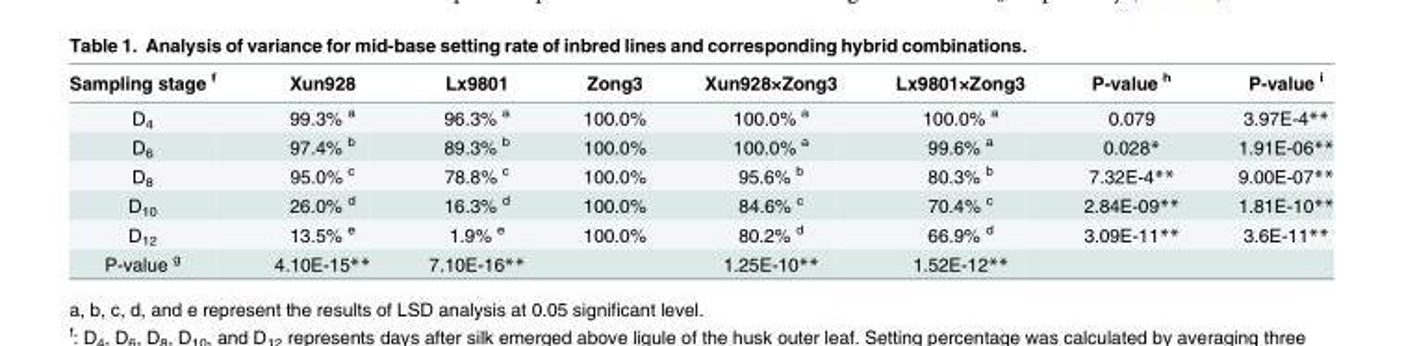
<table><thead><tr><td>Sampling stage <sup>f</sup></td><td>Xun928</td><td>Lx9801</td><td>Zong3</td><td>Xun928×Zong3</td><td>Lx9801×Zong3</td><td>P-value <sup>h</sup></td><td>P-value <sup>i</sup></td></tr></thead><tbody><tr><td>D<sub>4</sub></td><td>99.3% <sup>a</sup></td><td>96.3% <sup>a</sup></td><td>100.0%</td><td>100.0% <sup>a</sup></td><td>100.0% <sup>a</sup></td><td>0.079</td><td>3.97E-4**</td></tr><tr><td>D<sub>6</sub></td><td>97.4% <sup>b</sup></td><td>89.3% <sup>b</sup></td><td>100.0%</td><td>100.0% <sup>a</sup></td><td>99.6% <sup>a</sup></td><td>0.028*</td><td>1.91E-06**</td></tr><tr><td>D<sub>8</sub></td><td>95.0% <sup>c</sup></td><td>78.8% <sup>c</sup></td><td>100.0%</td><td>95.6% <sup>b</sup></td><td>80.3% <sup>b</sup></td><td>7.32E-4**</td><td>9.00E-07**</td></tr><tr><td>D<sub>10</sub></td><td>26.0% <sup>d</sup></td><td>16.3% <sup>d</sup></td><td>100.0%</td><td>84.6% <sup>c</sup></td><td>70.4% <sup>c</sup></td><td>2.84E-09**</td><td>1.81E-10**</td></tr><tr><td>D<sub>12</sub></td><td>13.5% <sup>e</sup></td><td>1.9% <sup>e</sup></td><td>100.0%</td><td>80.2% <sup>d</sup></td><td>66.9% <sup>d</sup></td><td>3.09E-11**</td><td>3.6E-11**</td></tr><tr><td>P-value <sup>g</sup></td><td>4.10E-15**</td><td>7.10E-16**</td><td></td><td>1.25E-10**</td><td>1.52E-12**</td><td></td><td></td></tr></tbody></table>